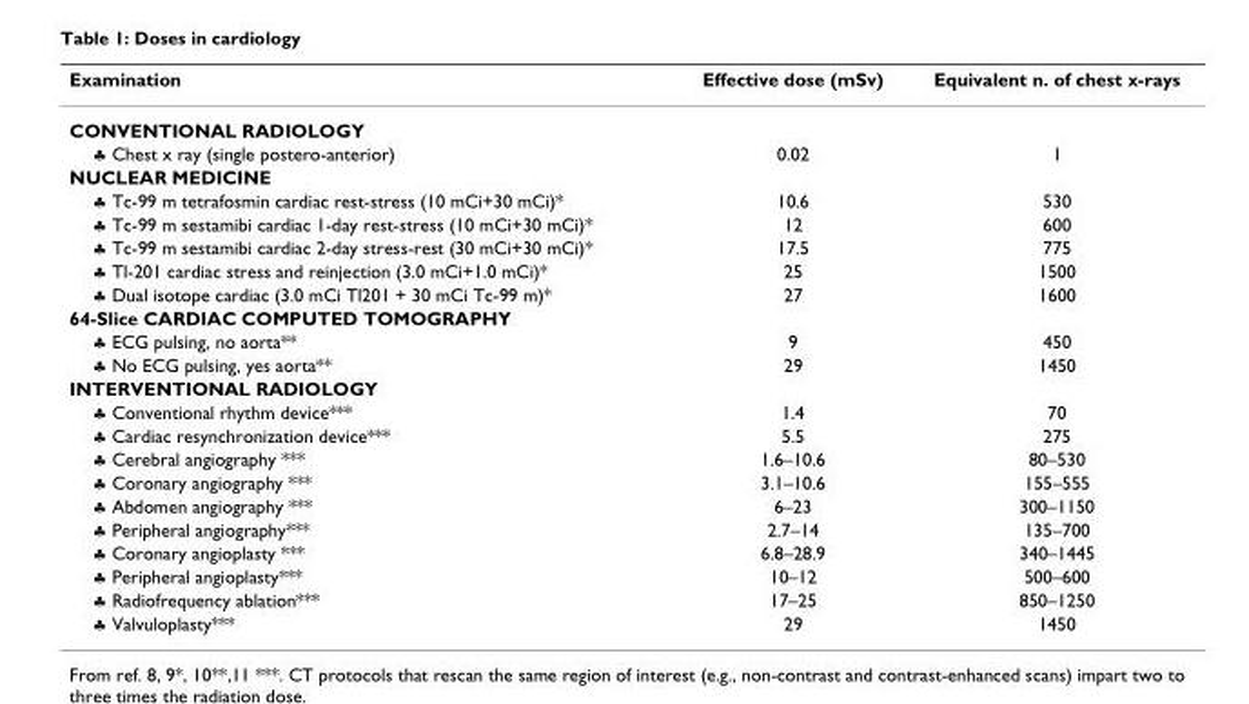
<table><thead><tr><td>Examination</td><td>Effective dose (mSv)</td><td>Equivalent n. of chest x-rays</td></tr></thead><tbody><tr><td colspan="3">CONVENTIONAL RADIOLOGY</td></tr><tr><td>♣ Chest x ray (single postero-anterior)</td><td>0.02</td><td>1</td></tr><tr><td colspan="3">NUCLEAR MEDICINE</td></tr><tr><td>♣ Tc-99 m tetrafosmin cardiac rest-stress (10 mCi+30 mCi)*</td><td>10.6</td><td>530</td></tr><tr><td>♣ Tc-99 m sestamibi cardiac 1-day rest-stress (10 mCi+30 mCi)*</td><td>12</td><td>600</td></tr><tr><td>♣ Tc-99 m sestamibi cardiac 2-day stress-rest (30 mCi+30 mCi)*</td><td>17.5</td><td>775</td></tr><tr><td>♣ Tl-201 cardiac stress and reinjection (3.0 mCi+1.0 mCi)*</td><td>25</td><td>1500</td></tr><tr><td>♣ Dual isotope cardiac (3.0 mCi Tl201 + 30 mCi Tc-99 m)*</td><td>27</td><td>1600</td></tr><tr><td colspan="3">64-Slice CARDIAC COMPUTED TOMOGRAPHY</td></tr><tr><td>♣ ECG pulsing, no aorta**</td><td>9</td><td>450</td></tr><tr><td>♣ No ECG pulsing, yes aorta**</td><td>29</td><td>1450</td></tr><tr><td colspan="3">INTERVENTIONAL RADIOLOGY</td></tr><tr><td>♣ Conventional rhythm device***</td><td>1.4</td><td>70</td></tr><tr><td>♣ Cardiac resynchronization device***</td><td>5.5</td><td>275</td></tr><tr><td>♣ Cerebral angiography ***</td><td>1.6–10.6</td><td>80–530</td></tr><tr><td>♣ Coronary angiography ***</td><td>3.1–10.6</td><td>155–555</td></tr><tr><td>♣ Abdomen angiography ***</td><td>6–23</td><td>300–1150</td></tr><tr><td>♣ Peripheral angiography***</td><td>2.7–14</td><td>135–700</td></tr><tr><td>♣ Coronary angioplasty ***</td><td>6.8–28.9</td><td>340–1445</td></tr><tr><td>♣ Peripheral angioplasty***</td><td>10–12</td><td>500–600</td></tr><tr><td>♣ Radiofrequency ablation***</td><td>17–25</td><td>850–1250</td></tr><tr><td>♣ Valvuloplasty***</td><td>29</td><td>1450</td></tr></tbody></table>